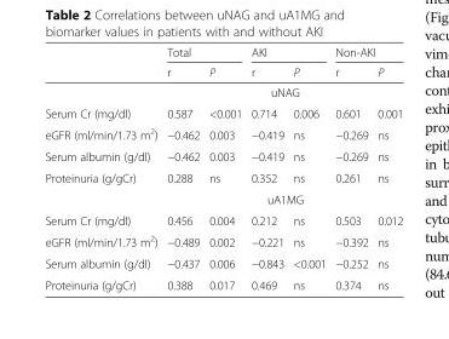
<table><thead><tr><td rowspan="2"></td><td colspan="2">Total</td><td colspan="2">AKI</td><td colspan="2">Non-AKI</td></tr><tr><td>r</td><td>P</td><td>r</td><td>P</td><td>r</td><td>P</td></tr></thead><tbody><tr><td></td><td colspan="6">uNAG</td></tr><tr><td>Serum Cr (mg/dl)</td><td>0.587</td><td>&lt;0.001</td><td>0.714</td><td>0.006</td><td>0.601</td><td>0.001</td></tr><tr><td>eGFR (ml/min/1.73 m<sup>2</sup>)</td><td>−0.462</td><td>0.003</td><td>−0.419</td><td>ns</td><td>−0.269</td><td>ns</td></tr><tr><td>Serum albumin (g/dl)</td><td>−0.462</td><td>0.003</td><td>−0.419</td><td>ns</td><td>−0.269</td><td>ns</td></tr><tr><td rowspan="2">Proteinuria (g/gCr)</td><td>0.288</td><td>ns</td><td>0.352</td><td>ns</td><td>0.261</td><td>ns</td></tr><tr><td colspan="6">uA1MG</td></tr><tr><td>Serum Cr (mg/dl)</td><td>0.456</td><td>0.004</td><td>0.212</td><td>ns</td><td>0.503</td><td>0.012</td></tr><tr><td>eGFR (ml/min/1.73 m<sup>2</sup>)</td><td>−0.489</td><td>0.002</td><td>−0.221</td><td>ns</td><td>−0.392</td><td>ns</td></tr><tr><td>Serum albumin (g/dl)</td><td>−0.437</td><td>0.006</td><td>−0.843</td><td>&lt;0.001</td><td>−0.252</td><td>ns</td></tr><tr><td>Proteinuria (g/gCr)</td><td>0.388</td><td>0.017</td><td>0.469</td><td>ns</td><td>0.374</td><td>ns</td></tr></tbody></table>